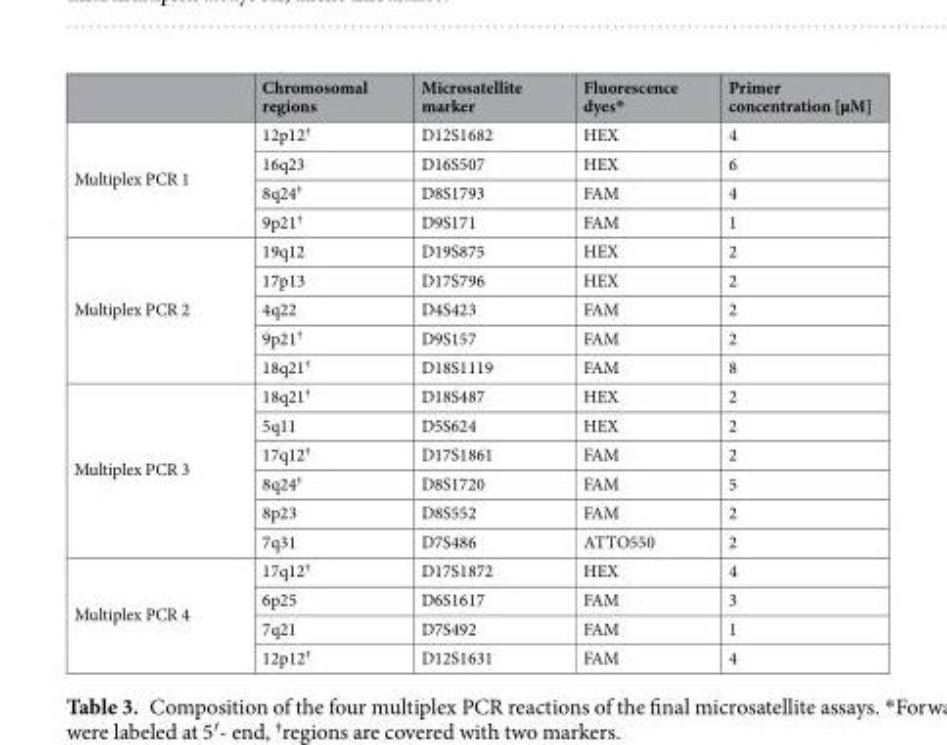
<table><thead><tr><td></td><td>Chromosomal regions</td><td>Microsatellite marker</td><td>Fluorescence dyes*</td><td>Primer concentration [µM]</td></tr></thead><tbody><tr><td rowspan="4">Multiplex PCR 1</td><td>12p12<sup>†</sup></td><td>D12S1682</td><td>HEX</td><td>4</td></tr><tr><td>16q23</td><td>D16S507</td><td>HEX</td><td>6</td></tr><tr><td>8q24<sup>†</sup></td><td>D8S1793</td><td>FAM</td><td>4</td></tr><tr><td>9p21<sup>†</sup></td><td>D9S171</td><td>FAM</td><td>1</td></tr><tr><td rowspan="5">Multiplex PCR 2</td><td>19q12</td><td>D19S875</td><td>HEX</td><td>2</td></tr><tr><td>17p13</td><td>D17S796</td><td>HEX</td><td>2</td></tr><tr><td>4q22</td><td>D4S423</td><td>FAM</td><td>2</td></tr><tr><td>9p21<sup>†</sup></td><td>D9S157</td><td>FAM</td><td>2</td></tr><tr><td>18q21<sup>†</sup></td><td>D18S1119</td><td>FAM</td><td>8</td></tr><tr><td rowspan="6">Multiplex PCR 3</td><td>18q21<sup>†</sup></td><td>D18S487</td><td>HEX</td><td>2</td></tr><tr><td>5q11</td><td>D5S624</td><td>HEX</td><td>2</td></tr><tr><td>17q12<sup>†</sup></td><td>D17S1861</td><td>FAM</td><td>2</td></tr><tr><td>8q24<sup>†</sup></td><td>D8S1720</td><td>FAM</td><td>5</td></tr><tr><td>8p23</td><td>D8S552</td><td>FAM</td><td>2</td></tr><tr><td>7q31</td><td>D7S486</td><td>ATTO550</td><td>2</td></tr><tr><td rowspan="4">Multiplex PCR 4</td><td>17q12<sup>†</sup></td><td>D17S1872</td><td>HEX</td><td>4</td></tr><tr><td>6p25</td><td>D6S1617</td><td>FAM</td><td>3</td></tr><tr><td>7q21</td><td>D7S492</td><td>FAM</td><td>1</td></tr><tr><td>12p12<sup>†</sup></td><td>D12S1631</td><td>FAM</td><td>4</td></tr></tbody></table>